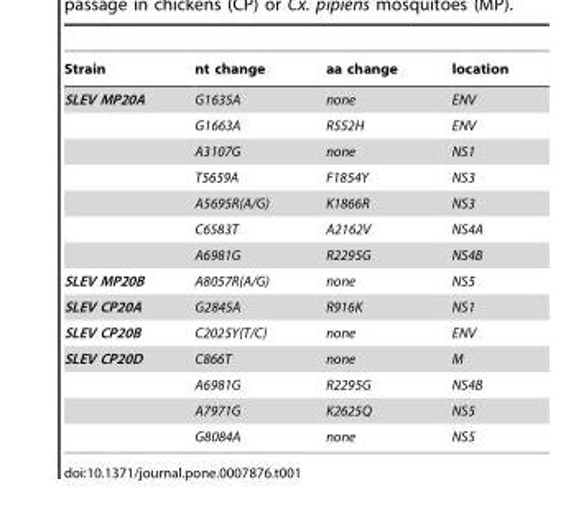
<table><thead><tr><td>Strain</td><td>nt change</td><td>aa change</td><td>location</td></tr></thead><tbody><tr><td rowspan="7">SLEV MP20A</td><td>G1635A</td><td>none</td><td>ENV</td></tr><tr><td>G1663A</td><td>R552H</td><td>ENV</td></tr><tr><td>A3107G</td><td>none</td><td>NS1</td></tr><tr><td>T5659A</td><td>F1854Y</td><td>NS3</td></tr><tr><td>A5695R(A/G)</td><td>K1866R</td><td>NS3</td></tr><tr><td>C6583T</td><td>A2162V</td><td>NS4A</td></tr><tr><td>A6981G</td><td>R2295G</td><td>NS4B</td></tr><tr><td>SLEV MP20B</td><td>A8057R(A/G)</td><td>none</td><td>NS5</td></tr><tr><td>SLEV CP20A</td><td>G2845A</td><td>R916K</td><td>NS1</td></tr><tr><td>SLEV CP20B</td><td>C2025Y(T/C)</td><td>none</td><td>ENV</td></tr><tr><td rowspan="4">SLEV CP20D</td><td>C866T</td><td>none</td><td>M</td></tr><tr><td>A6981G</td><td>R2295G</td><td>NS4B</td></tr><tr><td>A7971G</td><td>K2625Q</td><td>NS5</td></tr><tr><td>G8084A</td><td>none</td><td>NS5</td></tr></tbody></table>